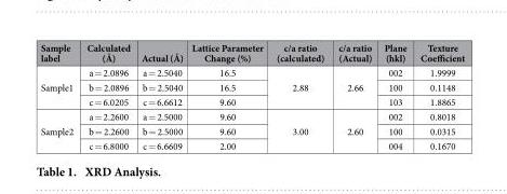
<table><thead><tr><td>Sample label</td><td>Calculated (Å)</td><td>Actual (Å)</td><td>Lattice Parameter Change (%)</td><td>c/a ratio (calculated)</td><td>c/a ratio (Actual)</td><td>Plane (hkl)</td><td>Texture Coefficient</td></tr></thead><tbody><tr><td rowspan="3">Sample1</td><td>a = 2.0896</td><td>a = 2.5040</td><td>16.5</td><td rowspan="3">2.88</td><td rowspan="3">2.66</td><td>002</td><td>1.9999</td></tr><tr><td>b = 2.0896</td><td>b = 2.5040</td><td>16.5</td><td>100</td><td>0.1148</td></tr><tr><td>c = 6.0205</td><td>c = 6.6612</td><td>9.60</td><td>103</td><td>1.8865</td></tr><tr><td rowspan="3">Sample2</td><td>a = 2.2600</td><td>a = 2.5000</td><td>9.60</td><td rowspan="3">3.00</td><td rowspan="3">2.60</td><td>002</td><td>0.8018</td></tr><tr><td>b = 2.2600</td><td>b = 2.5000</td><td>9.60</td><td>100</td><td>0.0315</td></tr><tr><td>c = 6.8000</td><td>c = 6.6609</td><td>2.00</td><td>004</td><td>0.1670</td></tr></tbody></table>